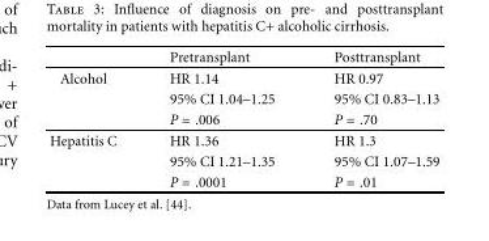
<table><thead><tr><td></td><td>Pretransplant</td><td>Posttransplant</td></tr></thead><tbody><tr><td rowspan="3">Alcohol</td><td>HR 1.14</td><td>HR 0.97</td></tr><tr><td>95% CI 1.04–1.25</td><td>95% CI 0.83–1.13</td></tr><tr><td>P = .006</td><td>P = .70</td></tr><tr><td rowspan="3">Hepatitis C</td><td>HR 1.36</td><td>HR 1.3</td></tr><tr><td>95% CI 1.21–1.35</td><td>95% CI 1.07–1.59</td></tr><tr><td>P = .0001</td><td>P = .01</td></tr></tbody></table>